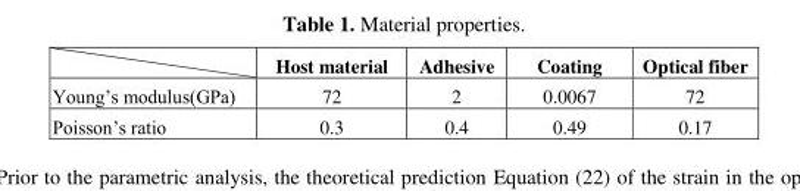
<table><thead><tr><td></td><td>Host material</td><td>Adhesive</td><td>Coating</td><td>Optical fiber</td></tr></thead><tbody><tr><td>Young’s modulus(GPa)</td><td>72</td><td>2</td><td>0.0067</td><td>72</td></tr><tr><td>Poisson’s ratio</td><td>0.3</td><td>0.4</td><td>0.49</td><td>0.17</td></tr></tbody></table>